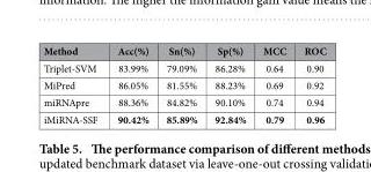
<table><thead><tr><td>Method</td><td>Acc(%)</td><td>Sn(%)</td><td>Sp(%)</td><td>MCC</td><td>ROC</td></tr></thead><tbody><tr><td>Triplet-SVM</td><td>83.99%</td><td>79.09%</td><td>86.28%</td><td>0.64</td><td>0.90</td></tr><tr><td>MiPred</td><td>86.05%</td><td>81.55%</td><td>88.23%</td><td>0.69</td><td>0.92</td></tr><tr><td>miRNApre</td><td>88.36%</td><td>84.82%</td><td>90.10%</td><td>0.74</td><td>0.94</td></tr><tr><td>iMiRNA-SSF</td><td>90.42%</td><td>85.89%</td><td>92.84%</td><td>0.79</td><td>0.96</td></tr></tbody></table>